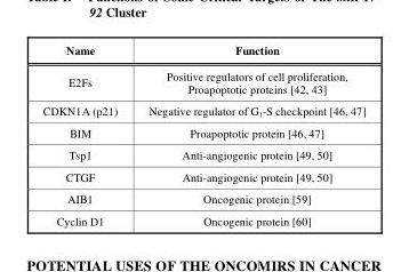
<table><thead><tr><td>Name</td><td>Function</td></tr></thead><tbody><tr><td>E2Fs</td><td>Positive regulators of cell proliferation, Proapoptotic proteins [42, 43]</td></tr><tr><td>CDKN1A (p21)</td><td>Negative regulator of G<sub>1</sub>-S checkpoint [46, 47]</td></tr><tr><td>BIM</td><td>Proapoptotic protein [46, 47]</td></tr><tr><td>Tsp1</td><td>Anti-angiogenic protein [49, 50]</td></tr><tr><td>CTGF</td><td>Anti-angiogenic protein [49, 50]</td></tr><tr><td>AIB1</td><td>Oncogenic protein [59]</td></tr><tr><td>Cyclin D1</td><td>Oncogenic protein [60]</td></tr></tbody></table>